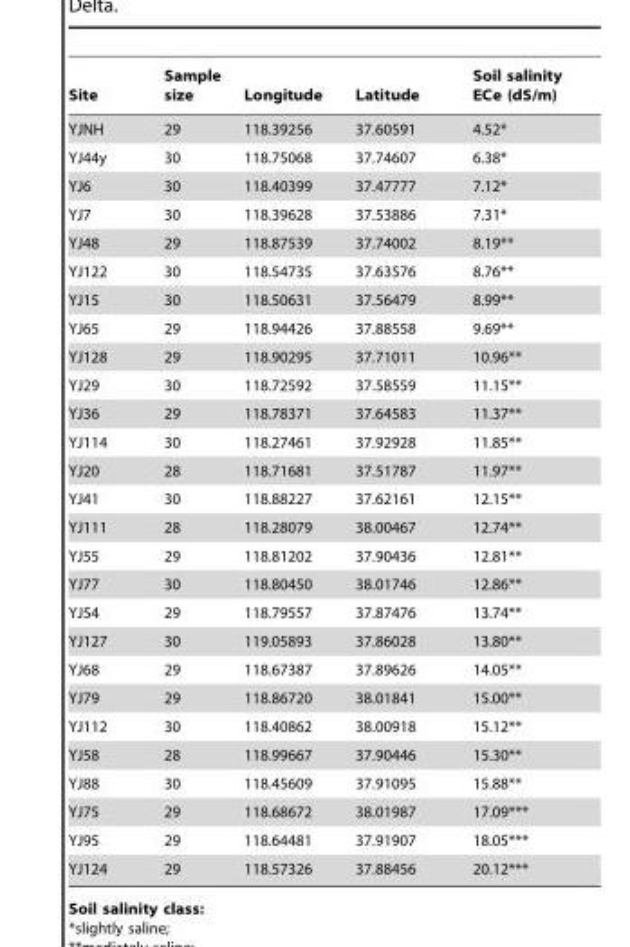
<table><thead><tr><td>Site</td><td>Sample size</td><td>Longitude</td><td>Latitude</td><td>Soil salinity ECe (dS/m)</td></tr></thead><tbody><tr><td>YJNH</td><td>29</td><td>118.39256</td><td>37.60591</td><td>4.52*</td></tr><tr><td>YJ44y</td><td>30</td><td>118.75068</td><td>37.74607</td><td>6.38*</td></tr><tr><td>YJ6</td><td>30</td><td>118.40399</td><td>37.47777</td><td>7.12*</td></tr><tr><td>YJ7</td><td>30</td><td>118.39628</td><td>37.53886</td><td>7.31*</td></tr><tr><td>YJ48</td><td>29</td><td>118.87539</td><td>37.74002</td><td>8.19**</td></tr><tr><td>YJ122</td><td>30</td><td>118.54735</td><td>37.63576</td><td>8.76**</td></tr><tr><td>YJ15</td><td>30</td><td>118.50631</td><td>37.56479</td><td>8.99**</td></tr><tr><td>YJ65</td><td>29</td><td>118.94426</td><td>37.88558</td><td>9.69**</td></tr><tr><td>YJ128</td><td>29</td><td>118.90295</td><td>37.71011</td><td>10.96**</td></tr><tr><td>YJ29</td><td>30</td><td>118.72592</td><td>37.58559</td><td>11.15**</td></tr><tr><td>YJ36</td><td>29</td><td>118.78371</td><td>37.64583</td><td>11.37**</td></tr><tr><td>YJ114</td><td>30</td><td>118.27461</td><td>37.92928</td><td>11.85**</td></tr><tr><td>YJ20</td><td>28</td><td>118.71681</td><td>37.51787</td><td>11.97**</td></tr><tr><td>YJ41</td><td>30</td><td>118.88227</td><td>37.62161</td><td>12.15**</td></tr><tr><td>YJ111</td><td>28</td><td>118.28079</td><td>38.00467</td><td>12.74**</td></tr><tr><td>YJ55</td><td>29</td><td>118.81202</td><td>37.90436</td><td>12.81**</td></tr><tr><td>YJ77</td><td>30</td><td>118.80450</td><td>38.01746</td><td>12.86**</td></tr><tr><td>YJ54</td><td>29</td><td>118.79557</td><td>37.87476</td><td>13.74**</td></tr><tr><td>YJ127</td><td>30</td><td>119.05893</td><td>37.86028</td><td>13.80**</td></tr><tr><td>YJ68</td><td>29</td><td>118.67387</td><td>37.89626</td><td>14.05**</td></tr><tr><td>YJ79</td><td>29</td><td>118.86720</td><td>38.01841</td><td>15.00**</td></tr><tr><td>YJ112</td><td>30</td><td>118.40862</td><td>38.00918</td><td>15.12**</td></tr><tr><td>YJ58</td><td>28</td><td>118.99667</td><td>37.90446</td><td>15.30**</td></tr><tr><td>YJ88</td><td>30</td><td>118.45609</td><td>37.91095</td><td>15.88**</td></tr><tr><td>YJ75</td><td>29</td><td>118.68672</td><td>38.01987</td><td>17.09***</td></tr><tr><td>YJ95</td><td>29</td><td>118.64481</td><td>37.91907</td><td>18.05***</td></tr><tr><td>YJ124</td><td>29</td><td>118.57326</td><td>37.88456</td><td>20.12***</td></tr></tbody></table>